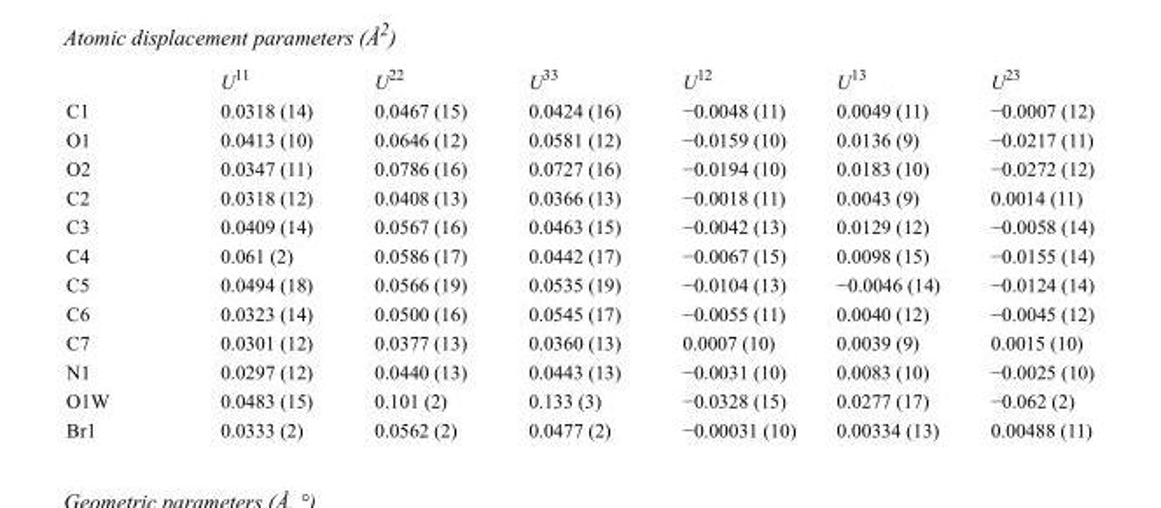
<table><thead><tr><td></td><td>U<sup>11</sup></td><td>U<sup>22</sup></td><td>U<sup>33</sup></td><td>U<sup>12</sup></td><td>U<sup>13</sup></td><td>U<sup>23</sup></td></tr></thead><tbody><tr><td>C1</td><td>0.0318 (14)</td><td>0.0467 (15)</td><td>0.0424 (16)</td><td>−0.0048 (11)</td><td>0.0049 (11)</td><td>−0.0007 (12)</td></tr><tr><td>O1</td><td>0.0413 (10)</td><td>0.0646 (12)</td><td>0.0581 (12)</td><td>−0.0159 (10)</td><td>0.0136 (9)</td><td>−0.0217 (11)</td></tr><tr><td>O2</td><td>0.0347 (11)</td><td>0.0786 (16)</td><td>0.0727 (16)</td><td>−0.0194 (10)</td><td>0.0183 (10)</td><td>−0.0272 (12)</td></tr><tr><td>C2</td><td>0.0318 (12)</td><td>0.0408 (13)</td><td>0.0366 (13)</td><td>−0.0018 (11)</td><td>0.0043 (9)</td><td>0.0014 (11)</td></tr><tr><td>C3</td><td>0.0409 (14)</td><td>0.0567 (16)</td><td>0.0463 (15)</td><td>−0.0042 (13)</td><td>0.0129 (12)</td><td>−0.0058 (14)</td></tr><tr><td>C4</td><td>0.061 (2)</td><td>0.0586 (17)</td><td>0.0442 (17)</td><td>−0.0067 (15)</td><td>0.0098 (15)</td><td>−0.0155 (14)</td></tr><tr><td>C5</td><td>0.0494 (18)</td><td>0.0566 (19)</td><td>0.0535 (19)</td><td>−0.0104 (13)</td><td>−0.0046 (14)</td><td>−0.0124 (14)</td></tr><tr><td>C6</td><td>0.0323 (14)</td><td>0.0500 (16)</td><td>0.0545 (17)</td><td>−0.0055 (11)</td><td>0.0040 (12)</td><td>−0.0045 (12)</td></tr><tr><td>C7</td><td>0.0301 (12)</td><td>0.0377 (13)</td><td>0.0360 (13)</td><td>0.0007 (10)</td><td>0.0039 (9)</td><td>0.0015 (10)</td></tr><tr><td>N1</td><td>0.0297 (12)</td><td>0.0440 (13)</td><td>0.0443 (13)</td><td>−0.0031 (10)</td><td>0.0083 (10)</td><td>−0.0025 (10)</td></tr><tr><td>O1W</td><td>0.0483 (15)</td><td>0.101 (2)</td><td>0.133 (3)</td><td>−0.0328 (15)</td><td>0.0277 (17)</td><td>−0.062 (2)</td></tr><tr><td>Br1</td><td>0.0333 (2)</td><td>0.0562 (2)</td><td>0.0477 (2)</td><td>−0.00031 (10)</td><td>0.00334 (13)</td><td>0.00488 (11)</td></tr></tbody></table>